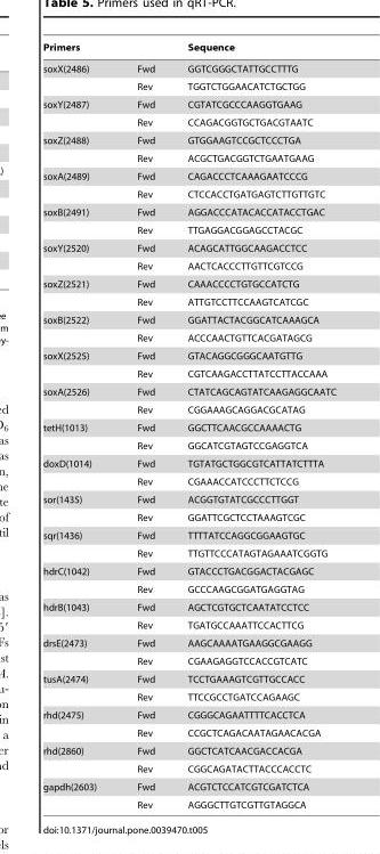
<table><thead><tr><td colspan="2">Primers</td><td rowspan="2">Sequence GGTCGGGCTATTGCCTTTG</td></tr><tr><td>soxX(2486)</td><td>Fwd</td></tr></thead><tbody><tr><td></td><td>Rev</td><td>TGGTCTGGAACATCTGCTGG</td></tr><tr><td rowspan="2">soxY(2487)</td><td>Fwd</td><td>CGTATCGCCCAAGGTGAAG</td></tr><tr><td>Rev</td><td>CCAGACGGTGCTGACGTAATC</td></tr><tr><td rowspan="2">soxZ(2488)</td><td>Fwd</td><td>GTGGAAGTCCGCTCCCTGA</td></tr><tr><td>Rev</td><td>ACGCTGACGGTCTGAATGAAG</td></tr><tr><td rowspan="2">soxA(2489)</td><td>Fwd</td><td>CAGACCCTCAAAGAATCCCG</td></tr><tr><td>Rev</td><td>CTCCACCTGATGAGTCTTGTTGTC</td></tr><tr><td rowspan="2">soxB(2491)</td><td>Fwd</td><td>AGGACCCATACACCATACCTGAC</td></tr><tr><td>Rev</td><td>TTGAGGACGGAGCCTACGC</td></tr><tr><td rowspan="2">soxY(2520)</td><td>Fwd</td><td>ACAGCATTGGCAAGACCTCC</td></tr><tr><td>Rev</td><td>AACTCACCCTTGTTCGTCCG</td></tr><tr><td rowspan="2">soxZ(2521)</td><td>Fwd</td><td>CAAACCCCTGTGCCATCTG</td></tr><tr><td>Rev</td><td>ATTGTCCTTCCAAGTCATCGC</td></tr><tr><td rowspan="2">soxB(2522)</td><td>Fwd</td><td>GGATTACTACGGCATCAAAGCA</td></tr><tr><td>Rev</td><td>ACCCAACTGTTCACGATAGCG</td></tr><tr><td rowspan="2">soxX(2525)</td><td>Fwd</td><td>GTACAGGCGGGCAATGTTG</td></tr><tr><td>Rev</td><td>CGTCAAGACCTTATCCTTACCAAA</td></tr><tr><td rowspan="2">soxA(2526)</td><td>Fwd</td><td>CTATCAGCAGTATCAAGAGGCAATC</td></tr><tr><td>Rev</td><td>CGGAAAGCAGGACGCATAG</td></tr><tr><td rowspan="2">tetH(1013)</td><td>Fwd</td><td>GGCTTCAACGCCAAAACTG</td></tr><tr><td>Rev</td><td>GGCATCGTAGTCCGAGGTCA</td></tr><tr><td rowspan="2">doxD(1014)</td><td>Fwd</td><td>TGTATGCTGGCGTCATTATCTTTA</td></tr><tr><td>Rev</td><td>CGAAACCATCCCTTCTCCG</td></tr><tr><td rowspan="2">sor(1435)</td><td>Fwd</td><td>ACGGTGTATCGCCCTTGGT</td></tr><tr><td>Rev</td><td>GGATTCGCTCCTAAAGTCGC</td></tr><tr><td rowspan="2">sqr(1436)</td><td>Fwd</td><td>TTTTATCCAGGCGGAAGTGC</td></tr><tr><td>Rev</td><td>TTGTTCCCATAGTAGAAATCGGTG</td></tr><tr><td rowspan="2">hdrC(1042)</td><td>Fwd</td><td>GTACCCTGACGGACTACGAGC</td></tr><tr><td>Rev</td><td>GCCCAAGCGGATGAGGTAG</td></tr><tr><td rowspan="2">hdrB(1043)</td><td>Fwd</td><td>AGCTCGTGCTCAATATCCTCC</td></tr><tr><td>Rev</td><td>TGATGCCAAATTCCACTTCG</td></tr><tr><td rowspan="2">drsE(2473)</td><td>Fwd</td><td>AAGCAAAATGAAGGCGAAGG</td></tr><tr><td>Rev</td><td>CGAAGAGGTCCACCGTCATC</td></tr><tr><td rowspan="2">tusA(2474)</td><td>Fwd</td><td>TCCTGAAAGTCGTTGCCACC</td></tr><tr><td>Rev</td><td>TTCCGCCTGATCCAGAAGC</td></tr><tr><td rowspan="2">rhd(2475)</td><td>Fwd</td><td>CGGGCAGAATTTTCACCTCA</td></tr><tr><td>Rev</td><td>CCGCTCAGACAATAGAACACGA</td></tr><tr><td rowspan="2">rhd(2860)</td><td>Fwd</td><td>GGCTCATCAACGACCACGA</td></tr><tr><td>Rev</td><td>CGGCAGATACTTACCCACCTC</td></tr><tr><td rowspan="2">gapdh(2603)</td><td>Fwd</td><td>ACGTCTCCATCGTCGATCTCA</td></tr><tr><td>Rev</td><td>AGGGCTTGTCGTTGTAGGCA</td></tr></tbody></table>